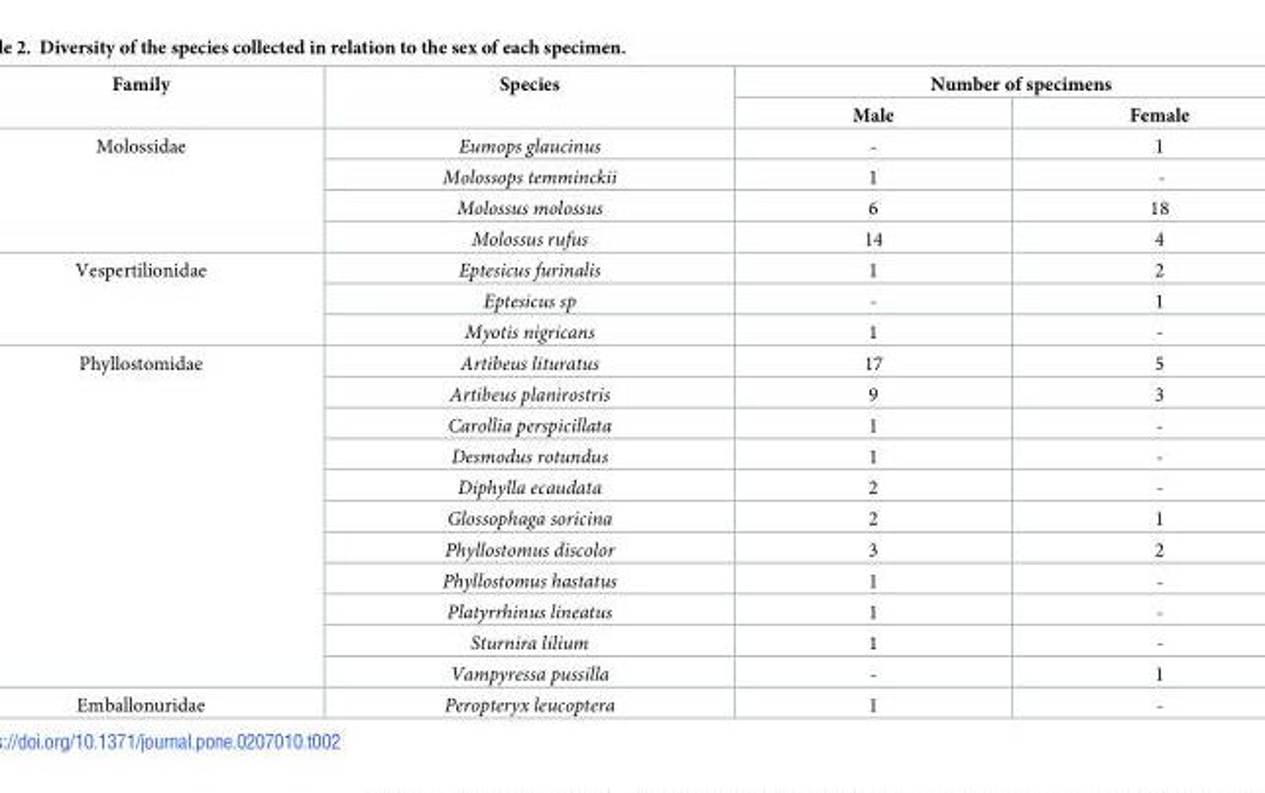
<table><thead><tr><td rowspan="2">Family</td><td rowspan="2">Species</td><td colspan="2">Number of specimens</td></tr><tr><td>Male</td><td>Female</td></tr></thead><tbody><tr><td rowspan="4">Molossidae</td><td>Eumops glaucinus</td><td>-</td><td>1</td></tr><tr><td>Molossops temminckii</td><td>1</td><td>-</td></tr><tr><td>Molossus molossus</td><td>6</td><td>18</td></tr><tr><td>Molossus rufus</td><td>14</td><td>4</td></tr><tr><td rowspan="3">Vespertilionidae</td><td>Eptesicus furinalis</td><td>1</td><td>2</td></tr><tr><td>Eptesicus sp</td><td>-</td><td>1</td></tr><tr><td>Myotis nigricans</td><td>1</td><td>-</td></tr><tr><td rowspan="11">Phyllostomidae</td><td>Artibeus lituratus</td><td>17</td><td>5</td></tr><tr><td>Artibeus planirostris</td><td>9</td><td>3</td></tr><tr><td>Carollia perspicillata</td><td>1</td><td>-</td></tr><tr><td>Desmodus rotundus</td><td>1</td><td>-</td></tr><tr><td>Diphylla ecaudata</td><td>2</td><td>-</td></tr><tr><td>Glossophaga soricina</td><td>2</td><td>1</td></tr><tr><td>Phyllostomus discolor</td><td>3</td><td>2</td></tr><tr><td>Phyllostomus hastatus</td><td>1</td><td>-</td></tr><tr><td>Platyrrhinus lineatus</td><td>1</td><td>-</td></tr><tr><td>Sturnira lilium</td><td>1</td><td>-</td></tr><tr><td>Vampyressa pussilla</td><td>-</td><td>1</td></tr><tr><td>Emballonuridae</td><td>Peropteryx leucoptera</td><td>1</td><td>-</td></tr></tbody></table>